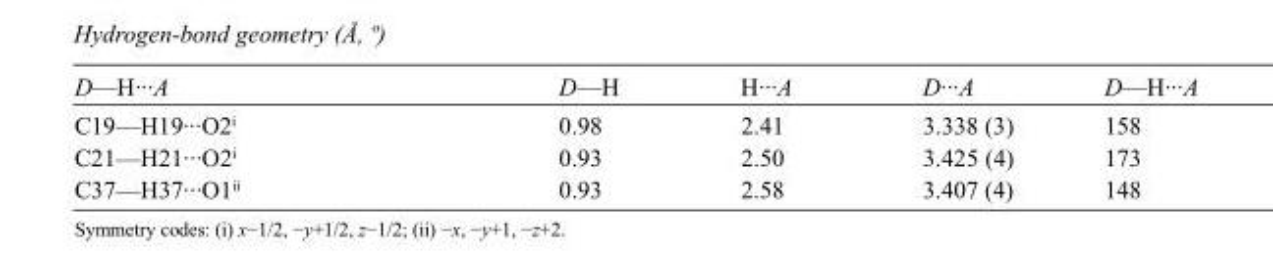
<table><tbody><tr><td>D—H···A</td><td>D—H</td><td>H···A</td><td>D···A</td><td>D—H···A</td></tr><tr><td>C19—H19···O2<sup>i</sup></td><td>0.98</td><td>2.41</td><td>3.338 (3)</td><td>158</td></tr><tr><td>C21—H21···O2<sup>i</sup></td><td>0.93</td><td>2.50</td><td>3.425 (4)</td><td>173</td></tr><tr><td>C37—H37···O1<sup>ii</sup></td><td>0.93</td><td>2.58</td><td>3.407 (4)</td><td>148</td></tr></tbody></table>